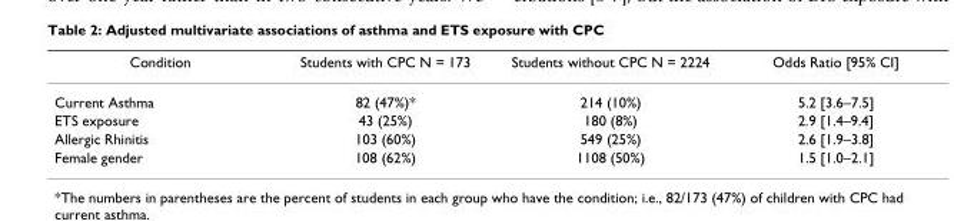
<table><thead><tr><td>Condition</td><td>Students with CPC N = 173</td><td>Students without CPC N = 2224</td><td>Odds Ratio [95% CI]</td></tr></thead><tbody><tr><td>Current Asthma</td><td>82 (47%)*</td><td>214 (10%)</td><td>5.2 [3.6–7.5]</td></tr><tr><td>ETS exposure</td><td>43 (25%)</td><td>180 (8%)</td><td>2.9 [1.4–9.4]</td></tr><tr><td>Allergic Rhinitis</td><td>103 (60%)</td><td>549 (25%)</td><td>2.6 [1.9–3.8]</td></tr><tr><td>Female gender</td><td>108 (62%)</td><td>1108 (50%)</td><td>1.5 [1.0–2.1]</td></tr></tbody></table>